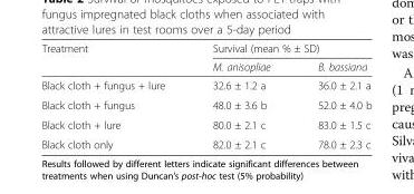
<table><thead><tr><td rowspan="2">Treatment</td><td colspan="2">Survival (mean % ± SD)</td></tr><tr><td>M. anisopliae</td><td>B. bassiana</td></tr></thead><tbody><tr><td>Black cloth + fungus + lure</td><td>32.6 ± 1.2 a</td><td>36.0 ± 2.1 a</td></tr><tr><td>Black cloth + fungus</td><td>48.0 ± 3.6 b</td><td>52.0 ± 4.0 b</td></tr><tr><td>Black cloth + lure</td><td>80.0 ± 2.1 c</td><td>83.0 ± 1.5 c</td></tr><tr><td>Black cloth only</td><td>82.0 ± 2.1 c</td><td>78.0 ± 2.3 c</td></tr></tbody></table>